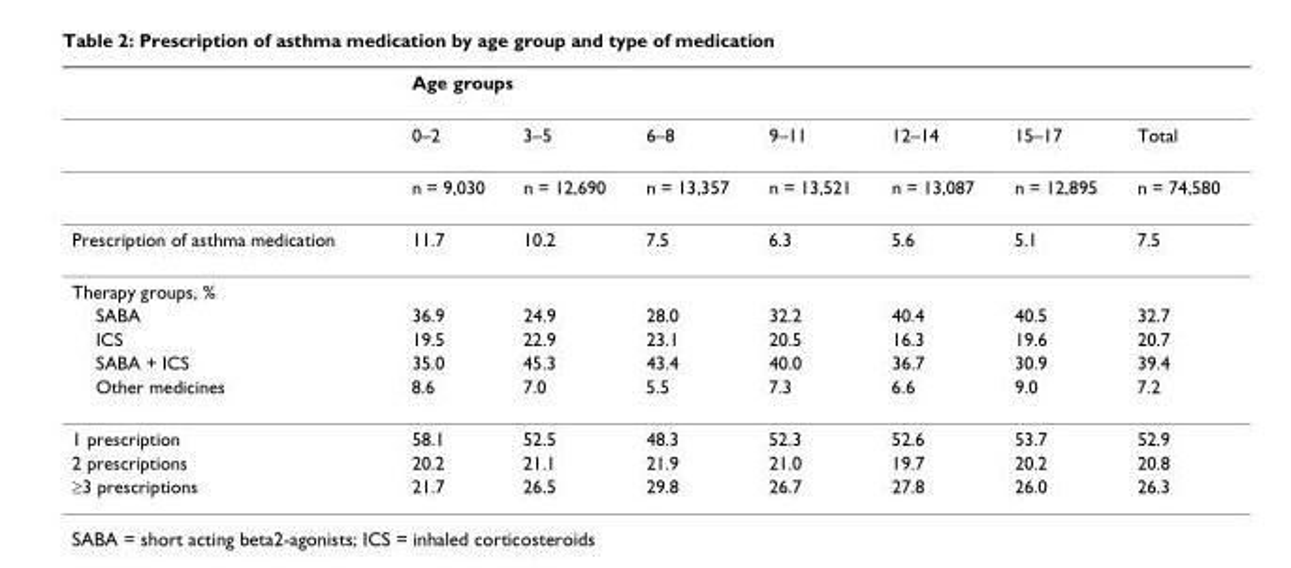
<table><thead><tr><td rowspan="2"></td><td colspan="7">Age groups</td></tr><tr><td>0–2</td><td>3–5</td><td>6–8</td><td>9–11</td><td>12–14</td><td>15–17</td><td>Total</td></tr></thead><tbody><tr><td></td><td>n = 9,030</td><td>n = 12,690</td><td>n = 13,357</td><td>n = 13,521</td><td>n = 13,087</td><td>n = 12,895</td><td>n = 74,580</td></tr><tr><td>Prescription of asthma medication</td><td>11.7</td><td>10.2</td><td>7.5</td><td>6.3</td><td>5.6</td><td>5.1</td><td>7.5</td></tr><tr><td colspan="8">Therapy groups, %</td></tr><tr><td>SABA</td><td>36.9</td><td>24.9</td><td>28.0</td><td>32.2</td><td>40.4</td><td>40.5</td><td>32.7</td></tr><tr><td>ICS</td><td>19.5</td><td>22.9</td><td>23.1</td><td>20.5</td><td>16.3</td><td>19.6</td><td>20.7</td></tr><tr><td>SABA + ICS</td><td>35.0</td><td>45.3</td><td>43.4</td><td>40.0</td><td>36.7</td><td>30.9</td><td>39.4</td></tr><tr><td>Other medicines</td><td>8.6</td><td>7.0</td><td>5.5</td><td>7.3</td><td>6.6</td><td>9.0</td><td>7.2</td></tr><tr><td>1 prescription</td><td>58.1</td><td>52.5</td><td>48.3</td><td>52.3</td><td>52.6</td><td>53.7</td><td>52.9</td></tr><tr><td>2 prescriptions</td><td>20.2</td><td>21.1</td><td>21.9</td><td>21.0</td><td>19.7</td><td>20.2</td><td>20.8</td></tr><tr><td>≥3 prescriptions</td><td>21.7</td><td>26.5</td><td>29.8</td><td>26.7</td><td>27.8</td><td>26.0</td><td>26.3</td></tr></tbody></table>